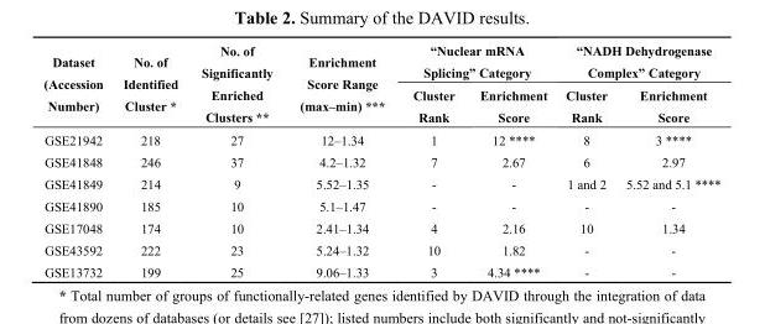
<table><thead><tr><td rowspan="2">Dataset (Accession Number)</td><td rowspan="2">No. of Identified Cluster *</td><td rowspan="2">No. of Significantly Enriched Clusters **</td><td rowspan="2">Enrichment Score Range (max–min) ***</td><td colspan="2">“Nuclear mRNA Splicing” Category</td><td colspan="2">“NADH Dehydrogenase Complex” Category</td></tr><tr><td>Cluster Rank</td><td>Enrichment Score</td><td>Cluster Rank</td><td>Enrichment Score</td></tr></thead><tbody><tr><td>GSE21942</td><td>218</td><td>27</td><td>12–1.34</td><td>1</td><td>12 ****</td><td>8</td><td>3 ****</td></tr><tr><td>GSE41848</td><td>246</td><td>37</td><td>4.2–1.32</td><td>7</td><td>2.67</td><td>6</td><td>2.97</td></tr><tr><td>GSE41849</td><td>214</td><td>9</td><td>5.52–1.35</td><td>-</td><td>-</td><td>1 and 2</td><td>5.52 and 5.1 ****</td></tr><tr><td>GSE41890</td><td>185</td><td>10</td><td>5.1–1.47</td><td>-</td><td>-</td><td>-</td><td>-</td></tr><tr><td>GSE17048</td><td>174</td><td>10</td><td>2.41–1.34</td><td>4</td><td>2.16</td><td>10</td><td>1.34</td></tr><tr><td>GSE43592</td><td>222</td><td>23</td><td>5.24–1.32</td><td>10</td><td>1.82</td><td>-</td><td>-</td></tr><tr><td>GSE13732</td><td>199</td><td>25</td><td>9.06–1.33</td><td>3</td><td>4.34 ****</td><td>-</td><td>-</td></tr></tbody></table>